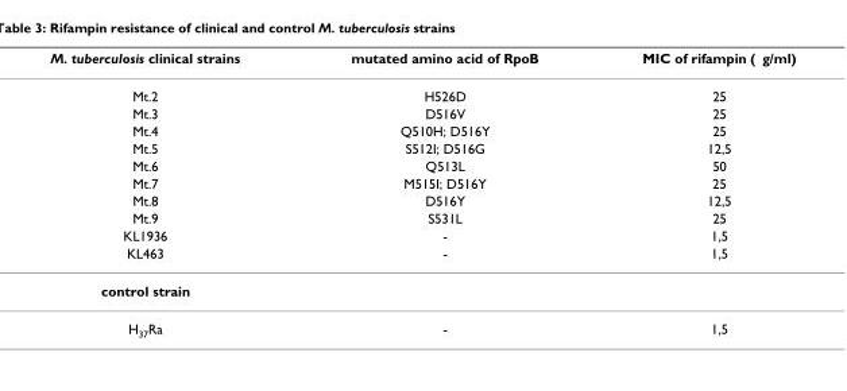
<table><thead><tr><td>M. tuberculosis clinical strains</td><td>mutated amino acid of RpoB</td><td>MIC of rifampin ( g/ml)</td></tr></thead><tbody><tr><td>Mt.2</td><td>H526D</td><td>25</td></tr><tr><td>Mt.3</td><td>D516V</td><td>25</td></tr><tr><td>Mt.4</td><td>Q510H; D516Y</td><td>25</td></tr><tr><td>Mt.5</td><td>S512I; D516G</td><td>12,5</td></tr><tr><td>Mt.6</td><td>Q513L</td><td>50</td></tr><tr><td>Mt.7</td><td>M515I; D516Y</td><td>25</td></tr><tr><td>Mt.8</td><td>D516Y</td><td>12,5</td></tr><tr><td>Mt.9</td><td>S531L</td><td>25</td></tr><tr><td>KL1936</td><td>-</td><td>1,5</td></tr><tr><td>KL463</td><td>-</td><td>1,5</td></tr><tr><td colspan="3">control strain</td></tr><tr><td>H<sub>37</sub>Ra</td><td>-</td><td>1,5</td></tr></tbody></table>